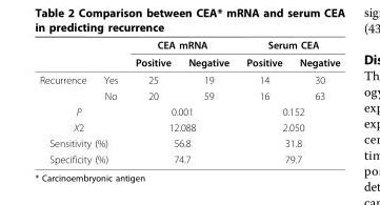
<table><thead><tr><td rowspan="2"></td><td rowspan="2"></td><td colspan="2">CEA mRNA</td><td colspan="2">Serum CEA</td></tr><tr><td>Positive</td><td>Negative</td><td>Positive</td><td>Negative</td></tr></thead><tbody><tr><td rowspan="2">Recurrence</td><td>Yes</td><td>25</td><td>19</td><td>14</td><td>30</td></tr><tr><td>No</td><td>20</td><td>59</td><td>16</td><td>63</td></tr><tr><td colspan="2">P</td><td colspan="2">0.001</td><td colspan="2">0.152</td></tr><tr><td colspan="2">X2</td><td colspan="2">12.088</td><td colspan="2">2.050</td></tr><tr><td colspan="2">Sensitivity (%)</td><td colspan="2">56.8</td><td colspan="2">31.8</td></tr><tr><td colspan="2">Specificity (%)</td><td colspan="2">74.7</td><td colspan="2">79.7</td></tr></tbody></table>